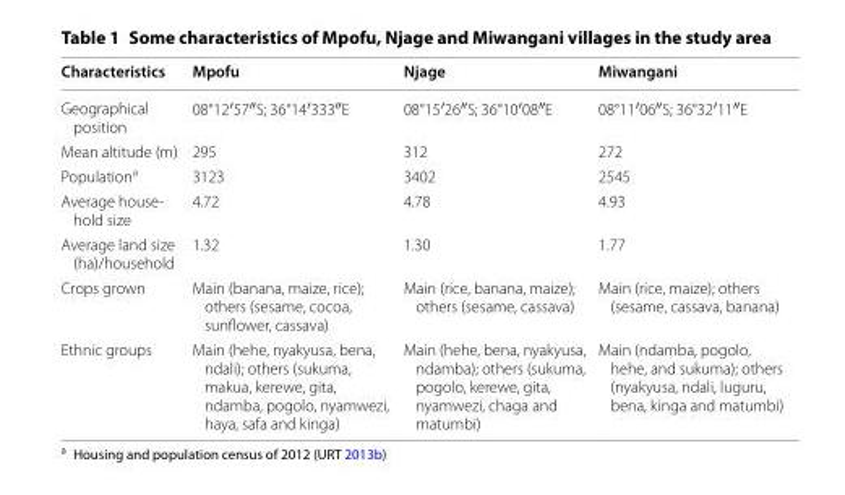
<table><thead><tr><td>Characteristics</td><td>Mpofu</td><td>Njage</td><td>Miwangani</td></tr></thead><tbody><tr><td>Geographical position</td><td>08°12′57″S; 36°14′333″E</td><td>08°15′26″S; 36°10′08″E</td><td>08°11′06″S; 36°32′11″E</td></tr><tr><td>Mean altitude (m)</td><td>295</td><td>312</td><td>272</td></tr><tr><td>Population<sup>a</sup></td><td>3123</td><td>3402</td><td>2545</td></tr><tr><td>Average house- hold size</td><td>4.72</td><td>4.78</td><td>4.93</td></tr><tr><td>Average land size (ha)/household</td><td>1.32</td><td>1.30</td><td>1.77</td></tr><tr><td>Crops grown</td><td>Main (banana, maize, rice); others (sesame, cocoa, sunflower, cassava)</td><td>Main (rice, banana, maize); others (sesame, cassava)</td><td>Main (rice, maize); others (sesame, cassava, banana)</td></tr><tr><td>Ethnic groups</td><td>Main (hehe, nyakyusa, bena, ndali); others (sukuma, makua, kerewe, gita, ndamba, pogolo, nyamwezi, haya, safa and kinga)</td><td>Main (hehe, bena, nyakyusa, ndamba); others (sukuma, pogolo, kerewe, gita, nyamwezi, chaga and matumbi)</td><td>Main (ndamba, pogolo, hehe, and sukuma); others (nyakyusa, ndali, luguru, bena, kinga and matumbi)</td></tr></tbody></table>